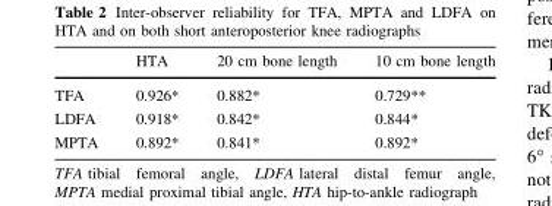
<table><thead><tr><td></td><td>HTA</td><td>20 cm bone length</td><td>10 cm bone length</td></tr></thead><tbody><tr><td>TFA</td><td>0.926*</td><td>0.882*</td><td>0.729**</td></tr><tr><td>LDFA</td><td>0.918*</td><td>0.842*</td><td>0.844*</td></tr><tr><td>MPTA</td><td>0.892*</td><td>0.841*</td><td>0.892*</td></tr></tbody></table>